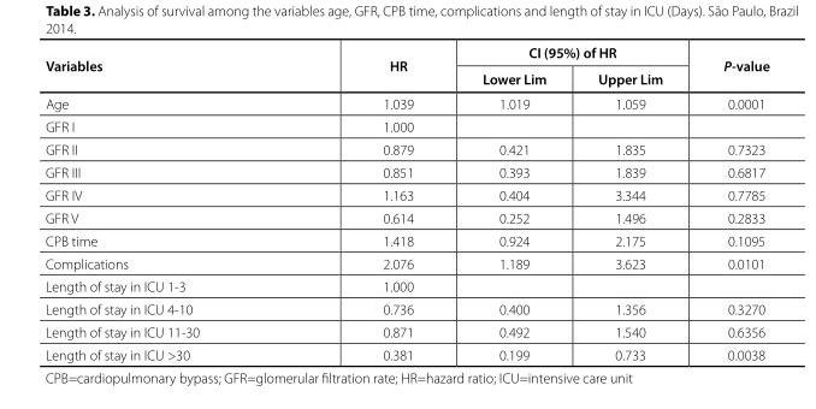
<table><thead><tr><td rowspan="2">Variables</td><td rowspan="2">HR</td><td colspan="2">CI (95%) of HR</td><td rowspan="2">P-value</td></tr><tr><td>Lower Lim</td><td>Upper Lim</td></tr></thead><tbody><tr><td>Age</td><td>1.039</td><td>1.019</td><td>1.059</td><td>0.0001</td></tr><tr><td>GFR I</td><td>1.000</td><td></td><td></td><td></td></tr><tr><td>GFR II</td><td>0.879</td><td>0.421</td><td>1.835</td><td>0.7323</td></tr><tr><td>GFR III</td><td>0.851</td><td>0.393</td><td>1.839</td><td>0.6817</td></tr><tr><td>GFR IV</td><td>1.163</td><td>0.404</td><td>3.344</td><td>0.7785</td></tr><tr><td>GFR V</td><td>0.614</td><td>0.252</td><td>1.496</td><td>0.2833</td></tr><tr><td>CPB time</td><td>1.418</td><td>0.924</td><td>2.175</td><td>0.1095</td></tr><tr><td>Complications</td><td>2.076</td><td>1.189</td><td>3.623</td><td>0.0101</td></tr><tr><td>Length of stay in ICU 1-3</td><td>1.000</td><td></td><td></td><td></td></tr><tr><td>Length of stay in ICU 4-10</td><td>0.736</td><td>0.400</td><td>1.356</td><td>0.3270</td></tr><tr><td>Length of stay in ICU 11-30</td><td>0.871</td><td>0.492</td><td>1.540</td><td>0.6356</td></tr><tr><td>Length of stay in ICU &gt;30</td><td>0.381</td><td>0.199</td><td>0.733</td><td>0.0038</td></tr></tbody></table>